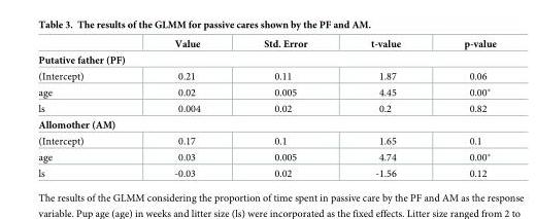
<table><thead><tr><td></td><td>Value</td><td>Std. Error</td><td>t-value</td><td>p-value</td></tr></thead><tbody><tr><td colspan="5">Putative father (PF)</td></tr><tr><td>(Intercept)</td><td>0.21</td><td>0.11</td><td>1.87</td><td>0.06</td></tr><tr><td>age</td><td>0.02</td><td>0.005</td><td>4.45</td><td>0.00*</td></tr><tr><td>ls</td><td>0.004</td><td>0.02</td><td>0.2</td><td>0.82</td></tr><tr><td colspan="5">Allomother (AM)</td></tr><tr><td>(Intercept)</td><td>0.17</td><td>0.1</td><td>1.65</td><td>0.1</td></tr><tr><td>age</td><td>0.03</td><td>0.005</td><td>4.74</td><td>0.00*</td></tr><tr><td>ls</td><td>-0.03</td><td>0.02</td><td>-1.56</td><td>0.12</td></tr></tbody></table>